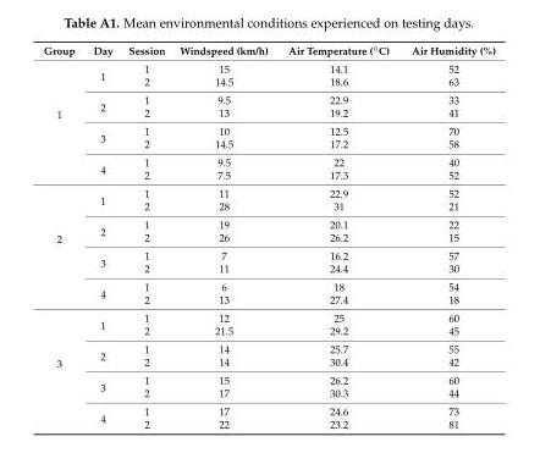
<table><thead><tr><td>Group</td><td>Day</td><td>Session</td><td>Windspeed (km/h)</td><td>Air Temperature (◦C)</td><td>Air Humidity (%)</td></tr></thead><tbody><tr><td rowspan="8">1</td><td rowspan="2">1</td><td>1</td><td>15</td><td>14.1</td><td>52</td></tr><tr><td>2</td><td>14.5</td><td>18.6</td><td>63</td></tr><tr><td rowspan="2">2</td><td>1</td><td>9.5</td><td>22.9</td><td>33</td></tr><tr><td>2</td><td>13</td><td>19.2</td><td>41</td></tr><tr><td rowspan="2">3</td><td>1</td><td>10</td><td>12.5</td><td>70</td></tr><tr><td>2</td><td>14.5</td><td>17.2</td><td>58</td></tr><tr><td rowspan="2">4</td><td>1</td><td>9.5</td><td>22</td><td>40</td></tr><tr><td>2</td><td>7.5</td><td>17.3</td><td>52</td></tr><tr><td rowspan="8">2</td><td rowspan="2">1</td><td>1</td><td>11</td><td>22.9</td><td>52</td></tr><tr><td>2</td><td>28</td><td>31</td><td>21</td></tr><tr><td rowspan="2">2</td><td>1</td><td>19</td><td>20.1</td><td>22</td></tr><tr><td>2</td><td>26</td><td>26.2</td><td>15</td></tr><tr><td rowspan="2">3</td><td>1</td><td>7</td><td>16.2</td><td>57</td></tr><tr><td>2</td><td>11</td><td>24.4</td><td>30</td></tr><tr><td rowspan="2">4</td><td>1</td><td>6</td><td>18</td><td>54</td></tr><tr><td>2</td><td>13</td><td>27.4</td><td>18</td></tr><tr><td rowspan="8">3</td><td rowspan="2">1</td><td>1</td><td>12</td><td>25</td><td>60</td></tr><tr><td>2</td><td>21.5</td><td>29.2</td><td>45</td></tr><tr><td rowspan="2">2</td><td>1</td><td>14</td><td>25.7</td><td>55</td></tr><tr><td>2</td><td>14</td><td>30.4</td><td>42</td></tr><tr><td rowspan="2">3</td><td>1</td><td>15</td><td>26.2</td><td>60</td></tr><tr><td>2</td><td>17</td><td>30.3</td><td>44</td></tr><tr><td rowspan="2">4</td><td>1</td><td>17</td><td>24.6</td><td>73</td></tr><tr><td>2</td><td>22</td><td>23.2</td><td>81</td></tr></tbody></table>